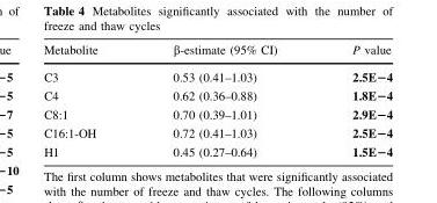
<table><thead><tr><td>Metabolite</td><td>β-estimate (95% CI)</td><td>P value</td></tr></thead><tbody><tr><td>C3</td><td>0.53 (0.41–1.03)</td><td>2.5E−4</td></tr><tr><td>C4</td><td>0.62 (0.36–0.88)</td><td>1.8E−4</td></tr><tr><td>C8:1</td><td>0.70 (0.39–1.01)</td><td>2.9E−4</td></tr><tr><td>C16:1-OH</td><td>0.72 (0.41–1.03)</td><td>2.5E−4</td></tr><tr><td>H1</td><td>0.45 (0.27–0.64)</td><td>1.5E−4</td></tr></tbody></table>